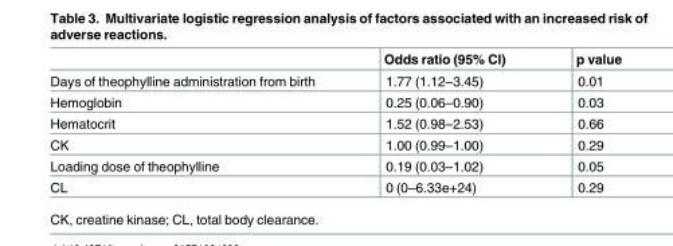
<table><thead><tr><td></td><td>Odds ratio (95% Cl)</td><td>p value</td></tr></thead><tbody><tr><td>Days of theophylline administration from birth</td><td>1.77 (1.12–3.45)</td><td>0.01</td></tr><tr><td>Hemoglobin</td><td>0.25 (0.06–0.90)</td><td>0.03</td></tr><tr><td>Hematocrit</td><td>1.52 (0.98–2.53)</td><td>0.66</td></tr><tr><td>CK</td><td>1.00 (0.99–1.00)</td><td>0.29</td></tr><tr><td>Loading dose of theophylline</td><td>0.19 (0.03–1.02)</td><td>0.05</td></tr><tr><td>CL</td><td>0 (0–6.33e+24)</td><td>0.29</td></tr></tbody></table>